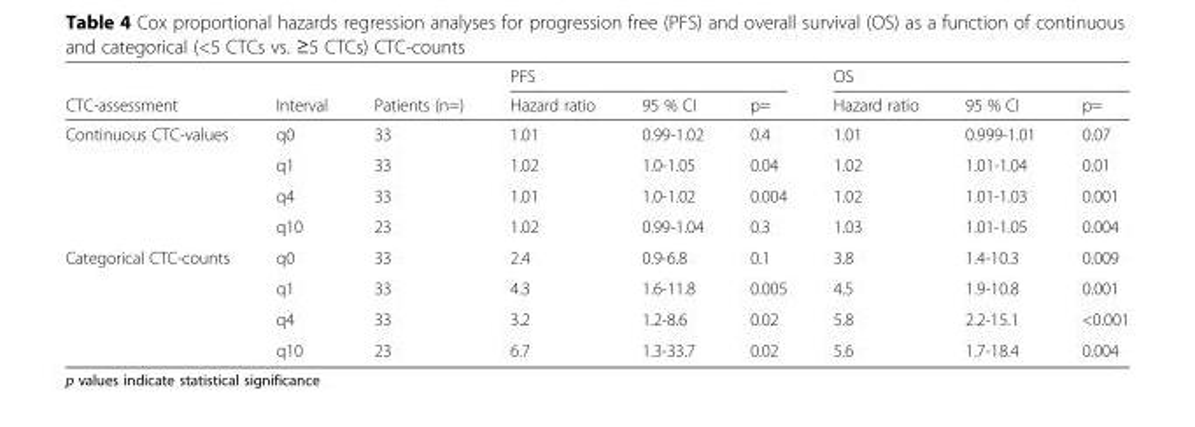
<table><thead><tr><td rowspan="2">CTC-assessment</td><td rowspan="2">Interval</td><td rowspan="2">Patients (n=)</td><td colspan="3">PFS</td><td colspan="3">OS</td></tr><tr><td>Hazard ratio</td><td>95 % CI</td><td>p=</td><td>Hazard ratio</td><td>95 % CI</td><td>p=</td></tr></thead><tbody><tr><td rowspan="4">Continuous CTC-values</td><td>q0</td><td>33</td><td>1.01</td><td>0.99-1.02</td><td>0.4</td><td>1.01</td><td>0.999-1.01</td><td>0.07</td></tr><tr><td>q1</td><td>33</td><td>1.02</td><td>1.0-1.05</td><td>0.04</td><td>1.02</td><td>1.01-1.04</td><td>0.01</td></tr><tr><td>q4</td><td>33</td><td>1.01</td><td>1.0-1.02</td><td>0.004</td><td>1.02</td><td>1.01-1.03</td><td>0.001</td></tr><tr><td>q10</td><td>23</td><td>1.02</td><td>0.99-1.04</td><td>0.3</td><td>1.03</td><td>1.01-1.05</td><td>0.004</td></tr><tr><td rowspan="4">Categorical CTC-counts</td><td>q0</td><td>33</td><td>2.4</td><td>0.9-6.8</td><td>0.1</td><td>3.8</td><td>1.4-10.3</td><td>0.009</td></tr><tr><td>q1</td><td>33</td><td>4.3</td><td>1.6-11.8</td><td>0.005</td><td>4.5</td><td>1.9-10.8</td><td>0.001</td></tr><tr><td>q4</td><td>33</td><td>3.2</td><td>1.2-8.6</td><td>0.02</td><td>5.8</td><td>2.2-15.1</td><td>&lt;0.001</td></tr><tr><td>q10</td><td>23</td><td>6.7</td><td>1.3-33.7</td><td>0.02</td><td>5.6</td><td>1.7-18.4</td><td>0.004</td></tr></tbody></table>